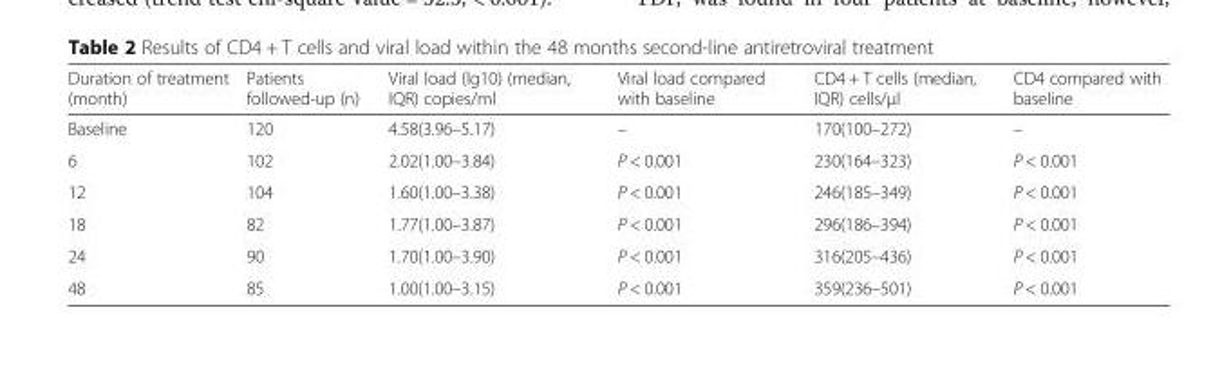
<table><thead><tr><td>Duration of treatment (month)</td><td>Patients followed-up (n)</td><td>Viral load (lg10) (median, IQR) copies/ml</td><td>Viral load compared with baseline</td><td>CD4 + T cells (median, IQR) cells/μl</td><td>CD4 compared with baseline</td></tr></thead><tbody><tr><td>Baseline</td><td>120</td><td>4.58(3.96–5.17)</td><td>–</td><td>170(100–272)</td><td>–</td></tr><tr><td>6</td><td>102</td><td>2.02(1.00–3.84)</td><td>P &lt; 0.001</td><td>230(164–323)</td><td>P &lt; 0.001</td></tr><tr><td>12</td><td>104</td><td>1.60(1.00–3.38)</td><td>P &lt; 0.001</td><td>246(185–349)</td><td>P &lt; 0.001</td></tr><tr><td>18</td><td>82</td><td>1.77(1.00–3.87)</td><td>P &lt; 0.001</td><td>296(186–394)</td><td>P &lt; 0.001</td></tr><tr><td>24</td><td>90</td><td>1.70(1.00–3.90)</td><td>P &lt; 0.001</td><td>316(205–436)</td><td>P &lt; 0.001</td></tr><tr><td>48</td><td>85</td><td>1.00(1.00–3.15)</td><td>P &lt; 0.001</td><td>359(236–501)</td><td>P &lt; 0.001</td></tr></tbody></table>